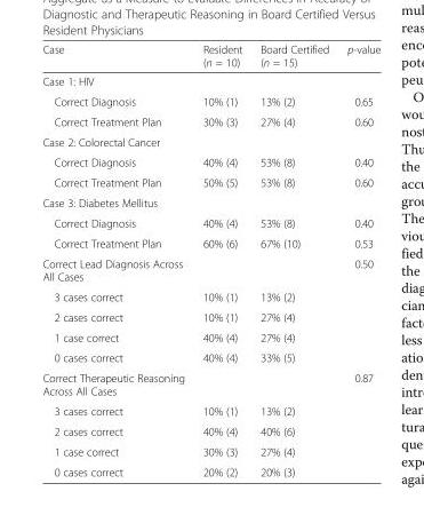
<table><thead><tr><td>Case</td><td>Resident (n = 10)</td><td>Board Certified (n = 15)</td><td>p-value</td></tr></thead><tbody><tr><td colspan="4">Case 1: HIV</td></tr><tr><td>Correct Diagnosis</td><td>10% (1)</td><td>13% (2)</td><td>0.65</td></tr><tr><td>Correct Treatment Plan</td><td>30% (3)</td><td>27% (4)</td><td>0.60</td></tr><tr><td colspan="4">Case 2: Colorectal Cancer</td></tr><tr><td>Correct Diagnosis</td><td>40% (4)</td><td>53% (8)</td><td>0.40</td></tr><tr><td>Correct Treatment Plan</td><td>50% (5)</td><td>53% (8)</td><td>0.60</td></tr><tr><td colspan="4">Case 3: Diabetes Mellitus</td></tr><tr><td>Correct Diagnosis</td><td>40% (4)</td><td>53% (8)</td><td>0.40</td></tr><tr><td>Correct Treatment Plan</td><td>60% (6)</td><td>67% (10)</td><td>0.53</td></tr><tr><td>Correct Lead Diagnosis Across All Cases</td><td></td><td></td><td>0.50</td></tr><tr><td>3 cases correct</td><td>10% (1)</td><td>13% (2)</td><td></td></tr><tr><td>2 cases correct</td><td>10% (1)</td><td>27% (4)</td><td></td></tr><tr><td>1 case correct</td><td>40% (4)</td><td>27% (4)</td><td></td></tr><tr><td>0 cases correct</td><td>40% (4)</td><td>33% (5)</td><td></td></tr><tr><td>Correct Therapeutic Reasoning Across All Cases</td><td></td><td></td><td>0.87</td></tr><tr><td>3 cases correct</td><td>10% (1)</td><td>13% (2)</td><td></td></tr><tr><td>2 cases correct</td><td>40% (4)</td><td>40% (6)</td><td></td></tr><tr><td>1 case correct</td><td>30% (3)</td><td>27% (4)</td><td></td></tr><tr><td>0 cases correct</td><td>20% (2)</td><td>20% (3)</td><td></td></tr></tbody></table>